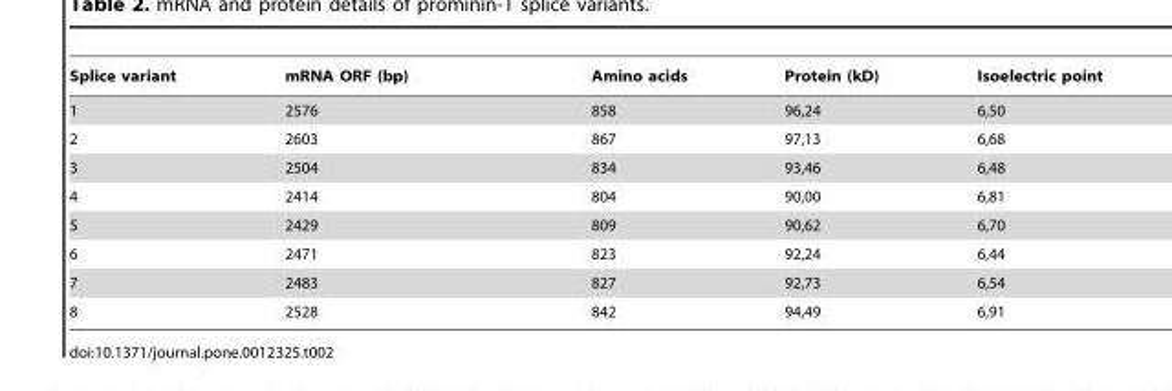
<table><thead><tr><td>Splice variant</td><td>mRNA ORF (bp)</td><td>Amino acids</td><td>Protein (kD)</td><td>Isoelectric point</td></tr></thead><tbody><tr><td>1</td><td>2576</td><td>858</td><td>96,24</td><td>6,50</td></tr><tr><td>2</td><td>2603</td><td>867</td><td>97,13</td><td>6,68</td></tr><tr><td>3</td><td>2504</td><td>834</td><td>93,46</td><td>6,48</td></tr><tr><td>4</td><td>2414</td><td>804</td><td>90,00</td><td>6,81</td></tr><tr><td>5</td><td>2429</td><td>809</td><td>90,62</td><td>6,70</td></tr><tr><td>6</td><td>2471</td><td>823</td><td>92,24</td><td>6,44</td></tr><tr><td>7</td><td>2483</td><td>827</td><td>92,73</td><td>6,54</td></tr><tr><td>8</td><td>2528</td><td>842</td><td>94,49</td><td>6,91</td></tr></tbody></table>